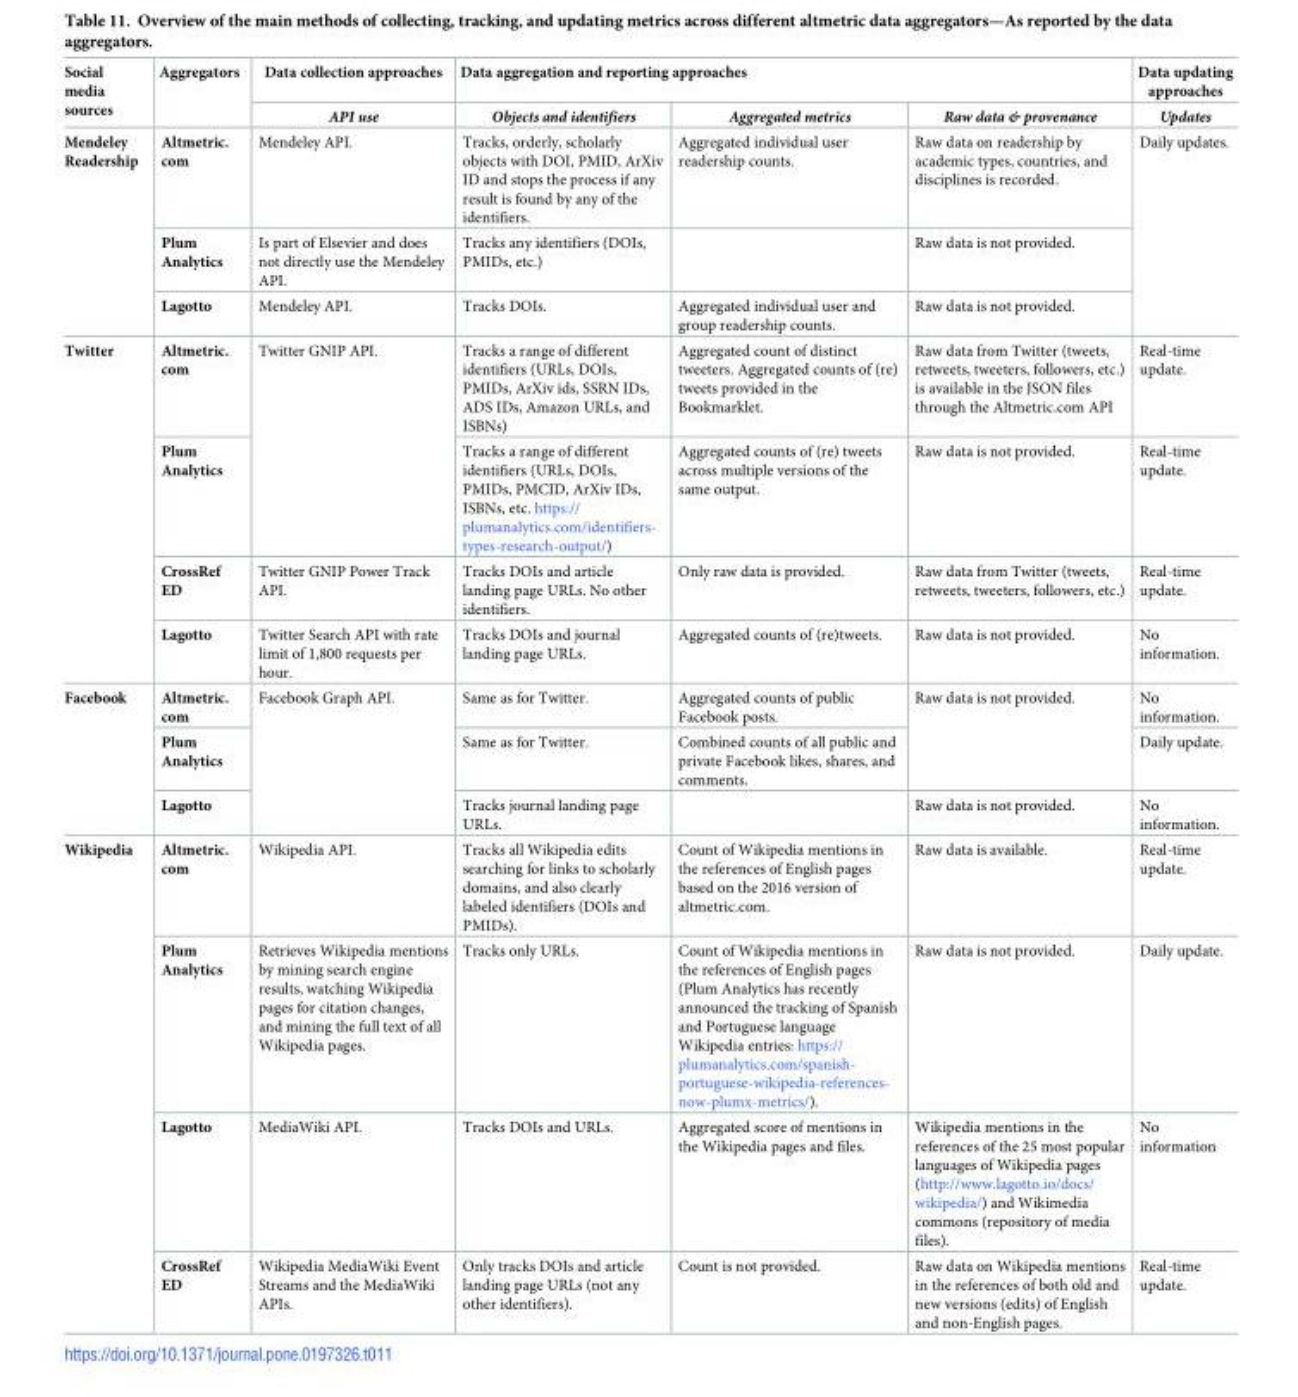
<table><thead><tr><td rowspan="2">Social media sources</td><td rowspan="2">Aggregators</td><td rowspan="2">Data collection approaches API use</td><td colspan="3">Data aggregation and reporting approaches</td><td rowspan="2">Data updating approaches Updates</td></tr><tr><td>Objects and identifiers</td><td>Aggregated metrics</td><td>Raw data &amp; provenance</td></tr></thead><tbody><tr><td rowspan="3">Mendeley Readership</td><td>Altmetric. com</td><td>Mendeley API.</td><td>Tracks, orderly, scholarly objects with DOI, PMID, ArXiv ID and stops the process if any result is found by any of the identifiers.</td><td>Aggregated individual user readership counts.</td><td>Raw data on readership by academic types, countries, and disciplines is recorded.</td><td rowspan="3">Daily updates.</td></tr><tr><td>Plum Analytics</td><td>Is part of Elsevier and does not directly use the Mendeley API.</td><td>Tracks any identifiers (DOIs, PMIDs, etc.)</td><td></td><td>Raw data is not provided.</td></tr><tr><td>Lagotto</td><td>Mendeley API.</td><td>Tracks DOIs.</td><td>Aggregated individual user and group readership counts.</td><td>Raw data is not provided.</td></tr><tr><td rowspan="4">Twitter</td><td>Altmetric. com</td><td rowspan="2">Twitter GNIP API.</td><td>Tracks a range of different identifiers (URLs, DOIs, PMIDs, ArXiv ids, SSRN IDs, ADS IDs, Amazon URLs, and ISBNs)</td><td>Aggregated count of distinct tweeters. Aggregated counts of (re) tweets provided in the Bookmarklet.</td><td>Raw data from Twitter (tweets, retweets, tweeters, followers, etc.) is available in the JSON files through the Altmetric.com API</td><td>Real-time update.</td></tr><tr><td>Plum Analytics</td><td>Tracks a range of different identifiers (URLs, DOIs, PMIDs, PMCID, ArXiv IDs, ISBNs, etc. https:// plumanalytics.com/identifiers- types-research-output/)</td><td>Aggregated counts of (re) tweets across multiple versions of the same output.</td><td>Raw data is not provided.</td><td>Real-time update.</td></tr><tr><td>CrossRef ED</td><td>Twitter GNIP Power Track API.</td><td>Tracks DOIs and article landing page URLs. No other identifiers.</td><td>Only raw data is provided.</td><td>Raw data from Twitter (tweets, retweets, tweeters, followers, etc.)</td><td>Real-time update.</td></tr><tr><td>Lagotto</td><td>Twitter Search API with rate limit of 1,800 requests per hour.</td><td>Tracks DOIs and journal landing page URLs.</td><td>Aggregated counts of (re)tweets.</td><td>Raw data is not provided.</td><td>No information.</td></tr><tr><td rowspan="3">Facebook</td><td>Altmetric. com</td><td rowspan="3">Facebook Graph API.</td><td>Same as for Twitter.</td><td>Aggregated counts of public Facebook posts.</td><td rowspan="2">Raw data is not provided.</td><td>No information.</td></tr><tr><td>Plum Analytics</td><td>Same as for Twitter.</td><td>Combined counts of all public and private Facebook likes, shares, and comments.</td><td>Daily update.</td></tr><tr><td>Lagotto</td><td>Tracks journal landing page URLs.</td><td></td><td>Raw data is not provided.</td><td>No information.</td></tr><tr><td rowspan="4">Wikipedia</td><td>Altmetric. com</td><td>Wikipedia API.</td><td>Tracks all Wikipedia edits searching for links to scholarly domains, and also clearly labeled identifiers (DOIs and PMIDs).</td><td>Count of Wikipedia mentions in the references of English pages based on the 2016 version of altmetric.com.</td><td>Raw data is available.</td><td>Real-time update.</td></tr><tr><td>Plum Analytics</td><td>Retrieves Wikipedia mentions by mining search engine results, watching Wikipedia pages for citation changes, and mining the full text of all Wikipedia pages.</td><td>Tracks only URLs.</td><td>Count of Wikipedia mentions in the references of English pages (Plum Analytics has recently announced the tracking of Spanish and Portuguese language Wikipedia entries: https:// plumanalytics.com/spanish- portuguese-wikipedia-references- now-plumx-metrics/).</td><td>Raw data is not provided.</td><td>Daily update.</td></tr><tr><td>Lagotto</td><td>MediaWiki API.</td><td>Tracks DOIs and URLs.</td><td>Aggregated score of mentions in the Wikipedia pages and files.</td><td>Wikipedia mentions in the references of the 25 most popular languages of Wikipedia pages (http://www.lagotto.io/docs/ wikipedia/) and Wikimedia commons (repository of media files).</td><td>No information</td></tr><tr><td>CrossRef ED</td><td>Wikipedia MediaWiki Event Streams and the MediaWiki APIs.</td><td>Only tracks DOIs and article landing page URLs (not any other identifiers).</td><td>Count is not provided.</td><td>Raw data on Wikipedia mentions in the references of both old and new versions (edits) of English and non-English pages.</td><td>Real-time update.</td></tr></tbody></table>